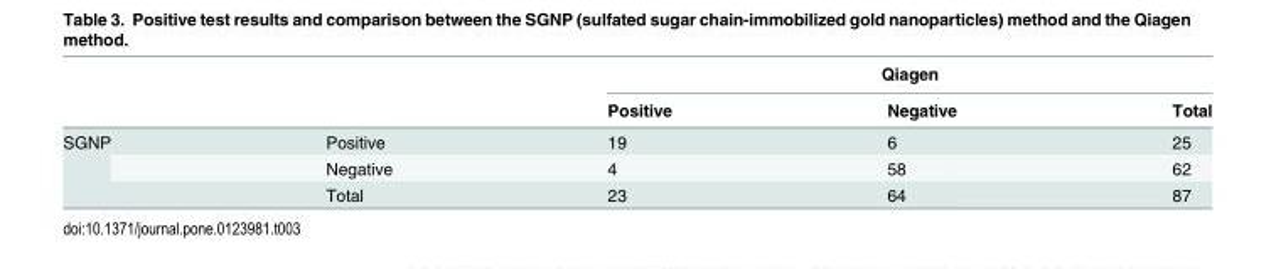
<table><thead><tr><td rowspan="2"></td><td rowspan="2"></td><td colspan="3">Qiagen</td></tr><tr><td>Positive</td><td>Negative</td><td>Total</td></tr></thead><tbody><tr><td rowspan="3">SGNP</td><td>Positive</td><td>19</td><td>6</td><td>25</td></tr><tr><td>Negative</td><td>4</td><td>58</td><td>62</td></tr><tr><td>Total</td><td>23</td><td>64</td><td>87</td></tr></tbody></table>